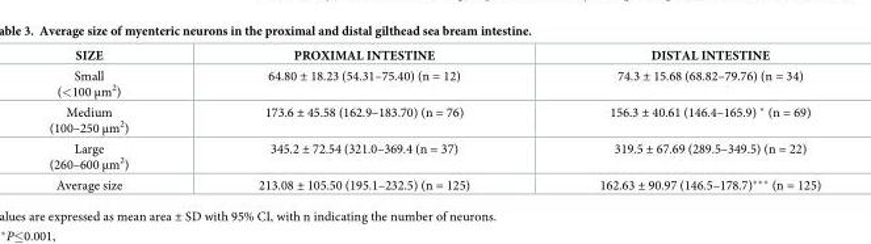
<table><thead><tr><td>SIZE</td><td>PROXIMAL INTESTINE</td><td>DISTAL INTESTINE</td></tr></thead><tbody><tr><td>Small (&lt;100 μm<sup>2</sup>)</td><td>64.80 ± 18.23 (54.31–75.40) (n = 12)</td><td>74.3 ± 15.68 (68.82–79.76) (n = 34)</td></tr><tr><td>Medium (100–250 μm<sup>2</sup>)</td><td>173.6 ± 45.58 (162.9–183.70) (n = 76)</td><td>156.3 ± 40.61 (146.4–165.9) * (n = 69)</td></tr><tr><td>Large (260–600 μm<sup>2</sup>)</td><td>345.2 ± 72.54 (321.0–369.4 (n = 37)</td><td>319.5 ± 67.69 (289.5–349.5) (n = 22)</td></tr><tr><td>Average size</td><td>213.08 ± 105.50 (195.1–232.5) (n = 125)</td><td>162.63 ± 90.97 (146.5–178.7)*** (n = 125)</td></tr></tbody></table>